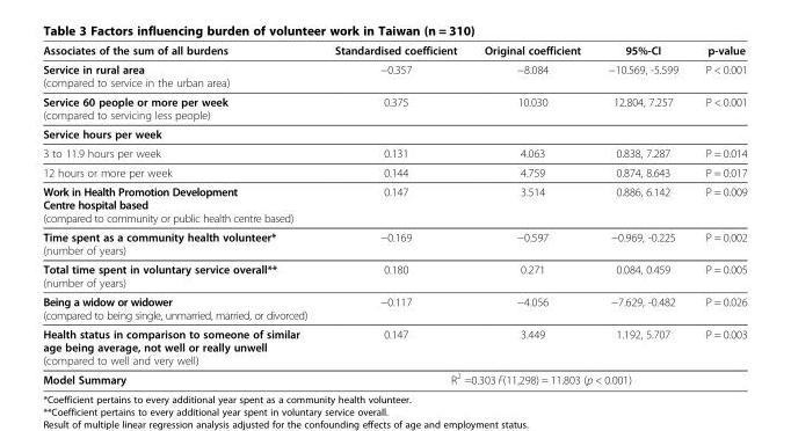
<table><thead><tr><td>Associates of the sum of all burdens</td><td>Standardised coefficient</td><td>Original coefficient</td><td>95%-CI</td><td>p-value</td></tr></thead><tbody><tr><td>Service in rural area (compared to service in the urban area)</td><td>−0.357</td><td>−8.084</td><td>−10.569, -5.599</td><td>P &lt; 0.001</td></tr><tr><td>Service 60 people or more per week (compared to servicing less people)</td><td>0.375</td><td>10.030</td><td>12.804, 7.257</td><td>P &lt; 0.001</td></tr><tr><td colspan="5">Service hours per week</td></tr><tr><td>3 to 11.9 hours per week</td><td>0.131</td><td>4.063</td><td>0.838, 7.287</td><td>P = 0.014</td></tr><tr><td>12 hours or more per week</td><td>0.144</td><td>4.759</td><td>0.874, 8.643</td><td>P = 0.017</td></tr><tr><td>Work in Health Promotion Development Centre hospital based (compared to community or public health centre based)</td><td>0.147</td><td>3.514</td><td>0.886, 6.142</td><td>P = 0.009</td></tr><tr><td>Time spent as a community health volunteer* (number of years)</td><td>−0.169</td><td>−0.597</td><td>−0.969, -0.225</td><td>P = 0.002</td></tr><tr><td>Total time spent in voluntary service overall** (number of years)</td><td>0.180</td><td>0.271</td><td>0.084, 0.459</td><td>P = 0.005</td></tr><tr><td>Being a widow or widower (compared to being single, unmarried, married, or divorced)</td><td>−0.117</td><td>−4.056</td><td>−7.629, -0.482</td><td>P = 0.026</td></tr><tr><td>Health status in comparison to someone of similar age being average, not well or really unwell (compared to well and very well)</td><td>0.147</td><td>3.449</td><td>1.192, 5.707</td><td>P = 0.003</td></tr><tr><td>Model Summary</td><td colspan="4">R<sup>2</sup> =0.303 F(11,298) = 11.803 (p &lt; 0.001)</td></tr></tbody></table>